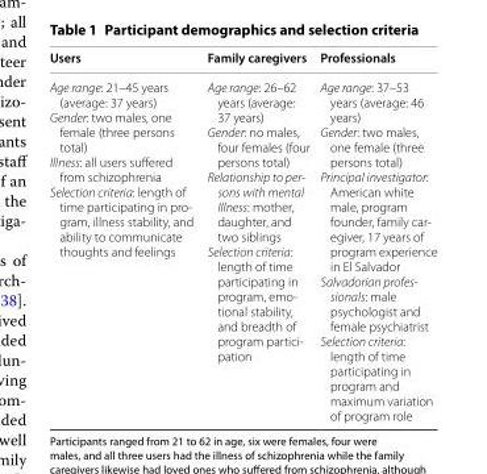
<table><thead><tr><td>Users</td><td>Family caregivers</td><td>Professionals</td></tr></thead><tbody><tr><td>Age range: 21–45 years (average: 37 years) Gender: two males, one female (three persons total) Illness: all users suffered from schizophrenia Selection criteria: length of time participating in pro- gram, illness stability, and ability to communicate thoughts and feelings</td><td>Age range: 26–62 years (average: 37 years) Gender: no males, four females (four persons total) Relationship to per- sons with mental Illness: mother, daughter, and two siblings Selection criteria: length of time participating in program, emo- tional stability, and breadth of program partici- pation</td><td>Age range: 37–53 years (average: 46 years) Gender: two males, one female (three persons total) Principal investigator: American white male, program founder, family car- egiver, 17 years of program experience in El Salvador Salvadorian profes- sionals: male psychologist and female psychiatrist Selection criteria: length of time participating in program and maximum variation of program role</td></tr></tbody></table>